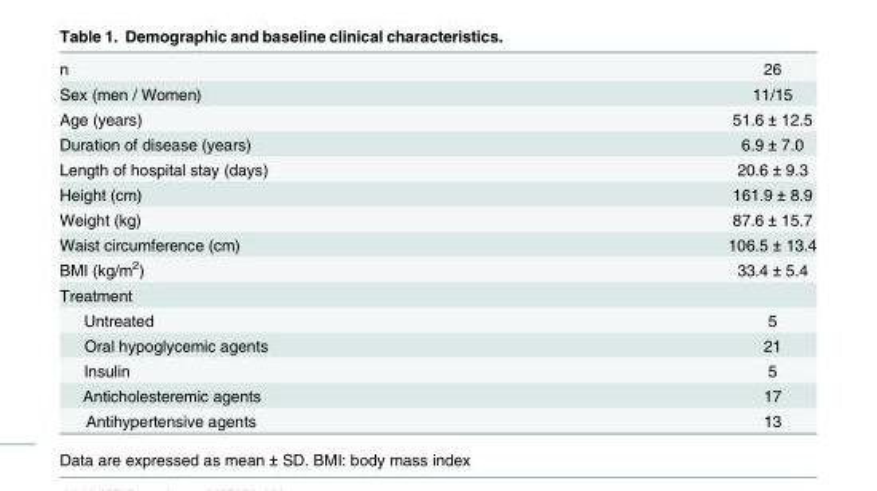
<table><tbody><tr><td>n</td><td>26</td></tr><tr><td>Sex (men / Women)</td><td>11/15</td></tr><tr><td>Age (years)</td><td>51.6 ± 12.5</td></tr><tr><td>Duration of disease (years)</td><td>6.9 ± 7.0</td></tr><tr><td>Length of hospital stay (days)</td><td>20.6 ± 9.3</td></tr><tr><td>Height (cm)</td><td>161.9 ± 8.9</td></tr><tr><td>Weight (kg)</td><td>87.6 ± 15.7</td></tr><tr><td>Waist circumference (cm)</td><td>106.5 ± 13.4</td></tr><tr><td>BMI (kg/m<sup>2</sup>)</td><td>33.4 ± 5.4</td></tr><tr><td colspan="2">Treatment</td></tr><tr><td>Untreated</td><td>5</td></tr><tr><td>Oral hypoglycemic agents</td><td>21</td></tr><tr><td>Insulin</td><td>5</td></tr><tr><td>Anticholesteremic agents</td><td>17</td></tr><tr><td>Antihypertensive agents</td><td>13</td></tr></tbody></table>